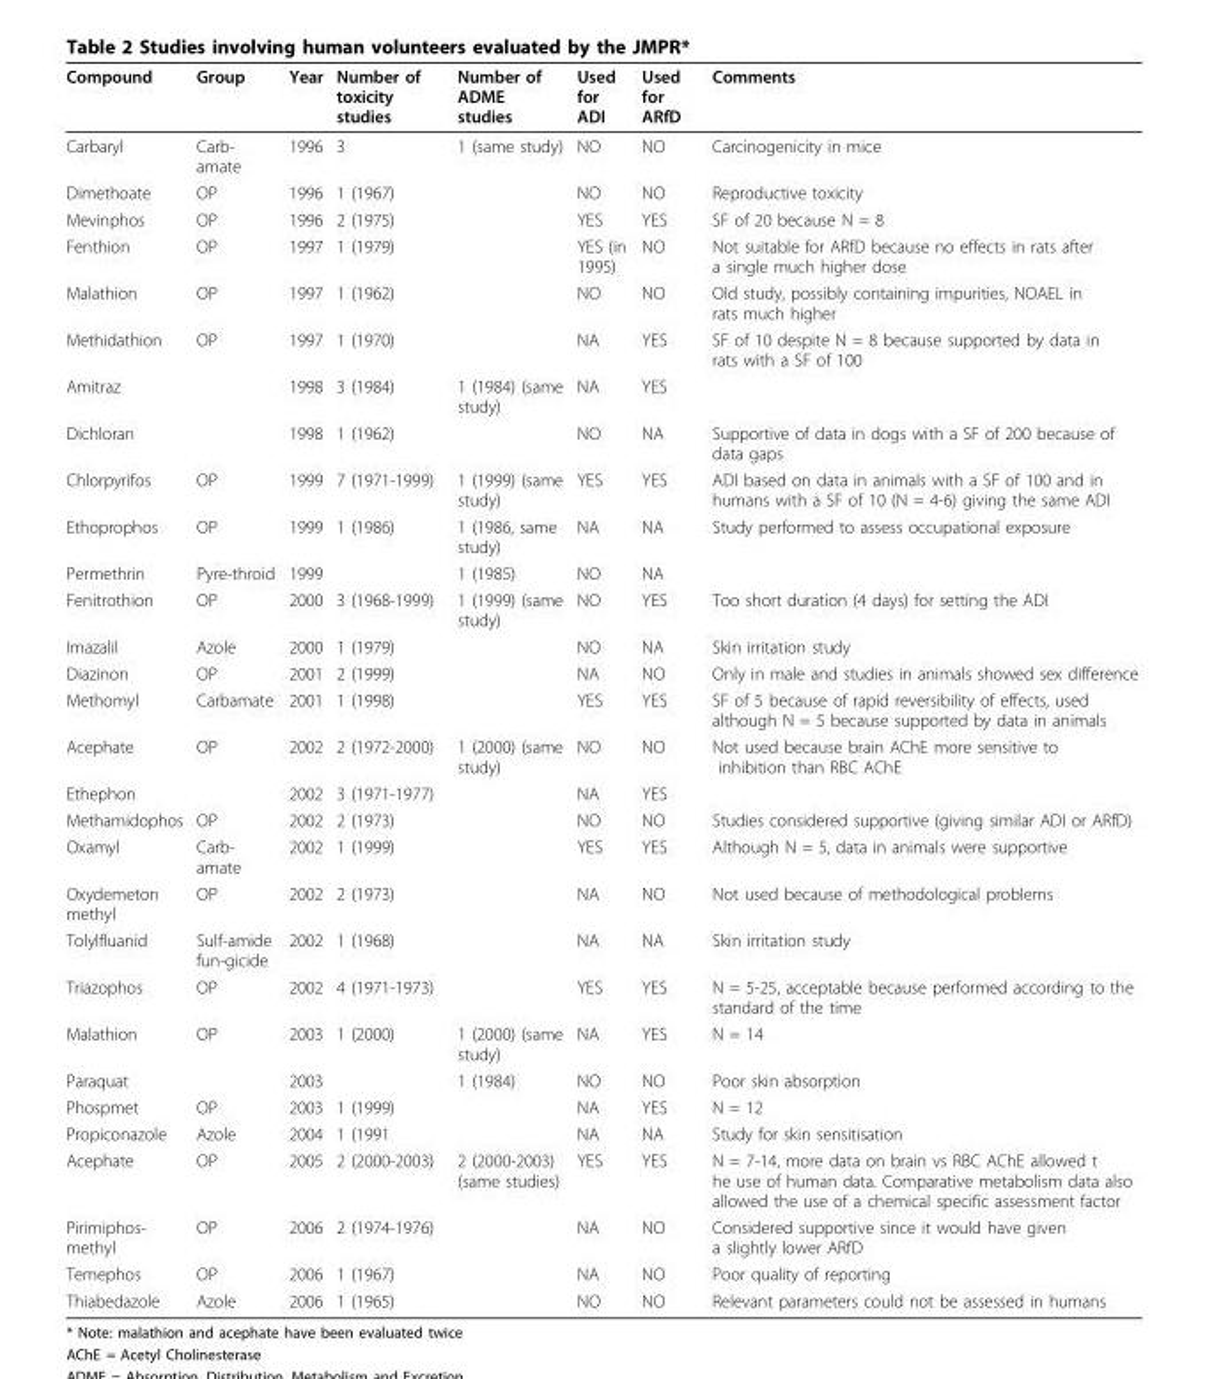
<table><thead><tr><td>Compound</td><td>Group</td><td>Year</td><td>Number of toxicity studies</td><td>Number of ADME studies</td><td>Used for ADI</td><td>Used for ARfD</td><td>Comments</td></tr></thead><tbody><tr><td>Carbaryl</td><td>Carb- amate</td><td>1996</td><td>3</td><td>1 (same study)</td><td>NO</td><td>NO</td><td>Carcinogenicity in mice</td></tr><tr><td>Dimethoate</td><td>OP</td><td>1996</td><td>1 (1967)</td><td></td><td>NO</td><td>NO</td><td>Reproductive toxicity</td></tr><tr><td>Mevinphos</td><td>OP</td><td>1996</td><td>2 (1975)</td><td></td><td>YES</td><td>YES</td><td>SF of 20 because N = 8</td></tr><tr><td>Fenthion</td><td>OP</td><td>1997</td><td>1 (1979)</td><td></td><td>YES (in 1995)</td><td>NO</td><td>Not suitable for ARfD because no effects in rats after a single much higher dose</td></tr><tr><td>Malathion</td><td>OP</td><td>1997</td><td>1 (1962)</td><td></td><td>NO</td><td>NO</td><td>Old study, possibly containing impurities, NOAEL in rats much higher</td></tr><tr><td>Methidathion</td><td>OP</td><td>1997</td><td>1 (1970)</td><td></td><td>NA</td><td>YES</td><td>SF of 10 despite N = 8 because supported by data in rats with a SF of 100</td></tr><tr><td>Amitraz</td><td></td><td>1998</td><td>3 (1984)</td><td>1 (1984) (same study)</td><td>NA</td><td>YES</td><td></td></tr><tr><td>Dichloran</td><td></td><td>1998</td><td>1 (1962)</td><td></td><td>NO</td><td>NA</td><td>Supportive of data in dogs with a SF of 200 because of data gaps</td></tr><tr><td>Chlorpyrifos</td><td>OP</td><td>1999</td><td>7 (1971-1999)</td><td>1 (1999) (same study)</td><td>YES</td><td>YES</td><td>ADI based on data in animals with a SF of 100 and in humans with a SF of 10 (N = 4-6) giving the same ADI</td></tr><tr><td>Ethoprophos</td><td>OP</td><td>1999</td><td>1 (1986)</td><td>1 (1986, same study)</td><td>NA</td><td>NA</td><td>Study performed to assess occupational exposure</td></tr><tr><td>Permethrin</td><td>Pyre-throid</td><td>1999</td><td></td><td>1 (1985)</td><td>NO</td><td>NA</td><td></td></tr><tr><td>Fenitrothion</td><td>OP</td><td>2000</td><td>3 (1968-1999)</td><td>1 (1999) (same study)</td><td>NO</td><td>YES</td><td>Too short duration (4 days) for setting the ADI</td></tr><tr><td>Imazalil</td><td>Azole</td><td>2000</td><td>1 (1979)</td><td></td><td>NO</td><td>NA</td><td>Skin irritation study</td></tr><tr><td>Diazinon</td><td>OP</td><td>2001</td><td>2 (1999)</td><td></td><td>NA</td><td>NO</td><td>Only in male and studies in animals showed sex difference</td></tr><tr><td>Methomyl</td><td>Carbamate</td><td>2001</td><td>1 (1998)</td><td></td><td>YES</td><td>YES</td><td>SF of 5 because of rapid reversibility of effects, used although N = 5 because supported by data in animals</td></tr><tr><td>Acephate</td><td>OP</td><td>2002</td><td>2 (1972-2000)</td><td>1 (2000) (same study)</td><td>NO</td><td>NO</td><td>Not used because brain AChE more sensitive to inhibition than RBC AChE</td></tr><tr><td>Ethephon</td><td></td><td>2002</td><td>3 (1971-1977)</td><td></td><td>NA</td><td>YES</td><td></td></tr><tr><td>Methamidophos</td><td>OP</td><td>2002</td><td>2 (1973)</td><td></td><td>NO</td><td>NO</td><td>Studies considered supportive (giving similar ADI or ARfD)</td></tr><tr><td>Oxamyl</td><td>Carb- amate</td><td>2002</td><td>1 (1999)</td><td></td><td>YES</td><td>YES</td><td>Although N = 5, data in animals were supportive</td></tr><tr><td>Oxydemeton methyl</td><td>OP</td><td>2002</td><td>2 (1973)</td><td></td><td>NA</td><td>NO</td><td>Not used because of methodological problems</td></tr><tr><td>Tolylfluanid</td><td>Sulf-amide fun-gicide</td><td>2002</td><td>1 (1968)</td><td></td><td>NA</td><td>NA</td><td>Skin irritation study</td></tr><tr><td>Triazophos</td><td>OP</td><td>2002</td><td>4 (1971-1973)</td><td></td><td>YES</td><td>YES</td><td>N = 5-25, acceptable because performed according to the standard of the time</td></tr><tr><td>Malathion</td><td>OP</td><td>2003</td><td>1 (2000)</td><td>1 (2000) (same study)</td><td>NA</td><td>YES</td><td>N = 14</td></tr><tr><td>Paraquat</td><td></td><td>2003</td><td></td><td>1 (1984)</td><td>NO</td><td>NO</td><td>Poor skin absorption</td></tr><tr><td>Phospmet</td><td>OP</td><td>2003</td><td>1 (1999)</td><td></td><td>NA</td><td>YES</td><td>N = 12</td></tr><tr><td>Propiconazole</td><td>Azole</td><td>2004</td><td>1 (1991</td><td></td><td>NA</td><td>NA</td><td>Study for skin sensitisation</td></tr><tr><td>Acephate</td><td>OP</td><td>2005</td><td>2 (2000-2003)</td><td>2 (2000-2003) (same studies)</td><td>YES</td><td>YES</td><td>N = 7-14, more data on brain vs RBC AChE allowed t he use of human data. Comparative metabolism data also allowed the use of a chemical specific assessment factor</td></tr><tr><td>Pirimiphos- methyl</td><td>OP</td><td>2006</td><td>2 (1974-1976)</td><td></td><td>NA</td><td>NO</td><td>Considered supportive since it would have given a slightly lower ARfD</td></tr><tr><td>Temephos</td><td>OP</td><td>2006</td><td>1 (1967)</td><td></td><td>NA</td><td>NO</td><td>Poor quality of reporting</td></tr><tr><td>Thiabedazole</td><td>Azole</td><td>2006</td><td>1 (1965)</td><td></td><td>NO</td><td>NO</td><td>Relevant parameters could not be assessed in humans</td></tr></tbody></table>